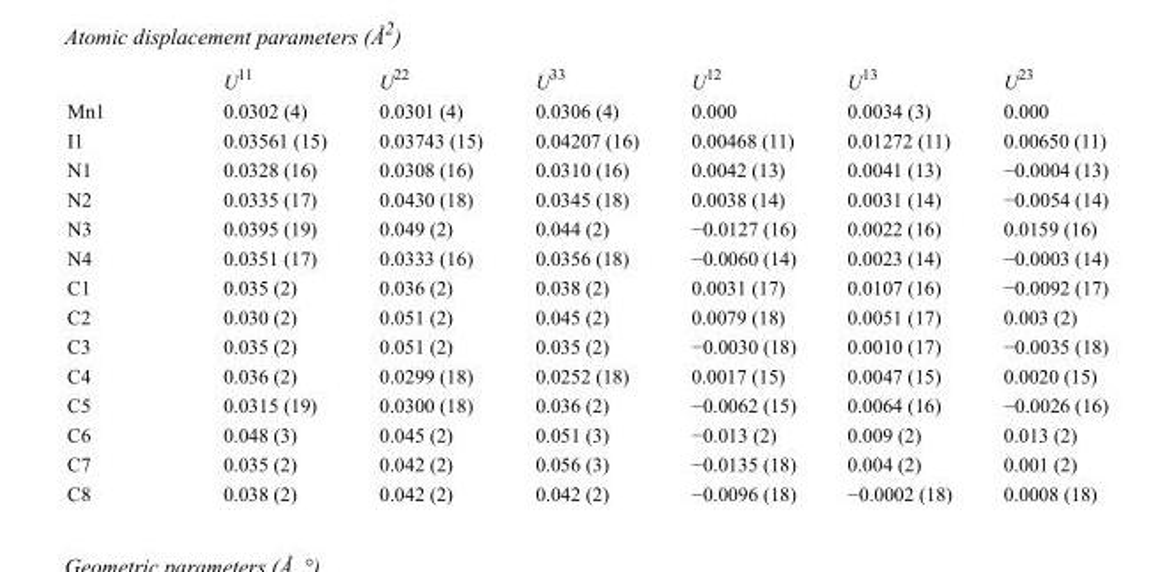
<table><thead><tr><td></td><td>U<sup>11</sup></td><td>U<sup>22</sup></td><td>U<sup>33</sup></td><td>U<sup>12</sup></td><td>U<sup>13</sup></td><td>U<sup>23</sup></td></tr></thead><tbody><tr><td>Mn1</td><td>0.0302 (4)</td><td>0.0301 (4)</td><td>0.0306 (4)</td><td>0.000</td><td>0.0034 (3)</td><td>0.000</td></tr><tr><td>I1</td><td>0.03561 (15)</td><td>0.03743 (15)</td><td>0.04207 (16)</td><td>0.00468 (11)</td><td>0.01272 (11)</td><td>0.00650 (11)</td></tr><tr><td>N1</td><td>0.0328 (16)</td><td>0.0308 (16)</td><td>0.0310 (16)</td><td>0.0042 (13)</td><td>0.0041 (13)</td><td>−0.0004 (13)</td></tr><tr><td>N2</td><td>0.0335 (17)</td><td>0.0430 (18)</td><td>0.0345 (18)</td><td>0.0038 (14)</td><td>0.0031 (14)</td><td>−0.0054 (14)</td></tr><tr><td>N3</td><td>0.0395 (19)</td><td>0.049 (2)</td><td>0.044 (2)</td><td>−0.0127 (16)</td><td>0.0022 (16)</td><td>0.0159 (16)</td></tr><tr><td>N4</td><td>0.0351 (17)</td><td>0.0333 (16)</td><td>0.0356 (18)</td><td>−0.0060 (14)</td><td>0.0023 (14)</td><td>−0.0003 (14)</td></tr><tr><td>C1</td><td>0.035 (2)</td><td>0.036 (2)</td><td>0.038 (2)</td><td>0.0031 (17)</td><td>0.0107 (16)</td><td>−0.0092 (17)</td></tr><tr><td>C2</td><td>0.030 (2)</td><td>0.051 (2)</td><td>0.045 (2)</td><td>0.0079 (18)</td><td>0.0051 (17)</td><td>0.003 (2)</td></tr><tr><td>C3</td><td>0.035 (2)</td><td>0.051 (2)</td><td>0.035 (2)</td><td>−0.0030 (18)</td><td>0.0010 (17)</td><td>−0.0035 (18)</td></tr><tr><td>C4</td><td>0.036 (2)</td><td>0.0299 (18)</td><td>0.0252 (18)</td><td>0.0017 (15)</td><td>0.0047 (15)</td><td>0.0020 (15)</td></tr><tr><td>C5</td><td>0.0315 (19)</td><td>0.0300 (18)</td><td>0.036 (2)</td><td>−0.0062 (15)</td><td>0.0064 (16)</td><td>−0.0026 (16)</td></tr><tr><td>C6</td><td>0.048 (3)</td><td>0.045 (2)</td><td>0.051 (3)</td><td>−0.013 (2)</td><td>0.009 (2)</td><td>0.013 (2)</td></tr><tr><td>C7</td><td>0.035 (2)</td><td>0.042 (2)</td><td>0.056 (3)</td><td>−0.0135 (18)</td><td>0.004 (2)</td><td>0.001 (2)</td></tr><tr><td>C8</td><td>0.038 (2)</td><td>0.042 (2)</td><td>0.042 (2)</td><td>−0.0096 (18)</td><td>−0.0002 (18)</td><td>0.0008 (18)</td></tr></tbody></table>